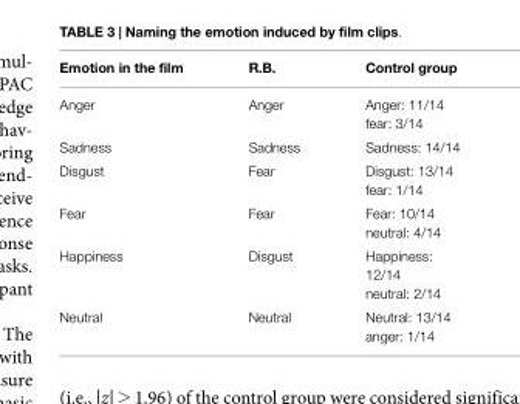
<table><thead><tr><td>Emotion in the film</td><td>R.B.</td><td>Control group</td></tr></thead><tbody><tr><td>Anger</td><td>Anger</td><td>Anger: 11/14 fear: 3/14</td></tr><tr><td>Sadness</td><td>Sadness</td><td>Sadness: 14/14</td></tr><tr><td>Disgust</td><td>Fear</td><td>Disgust: 13/14 fear: 1/14</td></tr><tr><td>Fear</td><td>Fear</td><td>Fear: 10/14 neutral: 4/14</td></tr><tr><td>Happiness</td><td>Disgust</td><td>Happiness: 12/14 neutral: 2/14</td></tr><tr><td>Neutral</td><td>Neutral</td><td>Neutral: 13/14 anger: 1/14</td></tr></tbody></table>